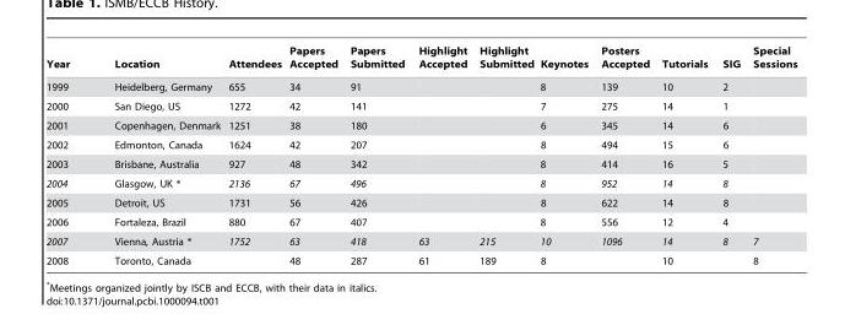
<table><thead><tr><td>Year</td><td>Location</td><td>Attendees</td><td>Papers Accepted</td><td>Papers Submitted</td><td>Highlight Accepted</td><td>Highlight Submitted</td><td>Keynotes</td><td>Posters Accepted</td><td>Tutorials</td><td>SIG</td><td>Special Sessions</td></tr></thead><tbody><tr><td>1999</td><td>Heidelberg, Germany</td><td>655</td><td>34</td><td>91</td><td></td><td></td><td>8</td><td>139</td><td>10</td><td>2</td><td></td></tr><tr><td>2000</td><td>San Diego, US</td><td>1272</td><td>42</td><td>141</td><td></td><td></td><td>7</td><td>275</td><td>14</td><td>1</td><td></td></tr><tr><td>2001</td><td>Copenhagen, Denmark</td><td>1251</td><td>38</td><td>180</td><td></td><td></td><td>6</td><td>345</td><td>14</td><td>6</td><td></td></tr><tr><td>2002</td><td>Edmonton, Canada</td><td>1624</td><td>42</td><td>207</td><td></td><td></td><td>8</td><td>494</td><td>15</td><td>6</td><td></td></tr><tr><td>2003</td><td>Brisbane, Australia</td><td>927</td><td>48</td><td>342</td><td></td><td></td><td>8</td><td>414</td><td>16</td><td>5</td><td></td></tr><tr><td>2004</td><td>Glasgow, UK *</td><td>2136</td><td>67</td><td>496</td><td></td><td></td><td>8</td><td>952</td><td>14</td><td>8</td><td></td></tr><tr><td>2005</td><td>Detroit, US</td><td>1731</td><td>56</td><td>426</td><td></td><td></td><td>8</td><td>622</td><td>14</td><td>8</td><td></td></tr><tr><td>2006</td><td>Fortaleza, Brazil</td><td>880</td><td>67</td><td>407</td><td></td><td></td><td>8</td><td>556</td><td>12</td><td>4</td><td></td></tr><tr><td>2007</td><td>Vienna, Austria *</td><td>1752</td><td>63</td><td>418</td><td>63</td><td>215</td><td>10</td><td>1096</td><td>14</td><td>8</td><td>7</td></tr><tr><td>2008</td><td>Toronto, Canada</td><td></td><td>48</td><td>287</td><td>61</td><td>189</td><td>8</td><td></td><td>10</td><td></td><td>8</td></tr></tbody></table>